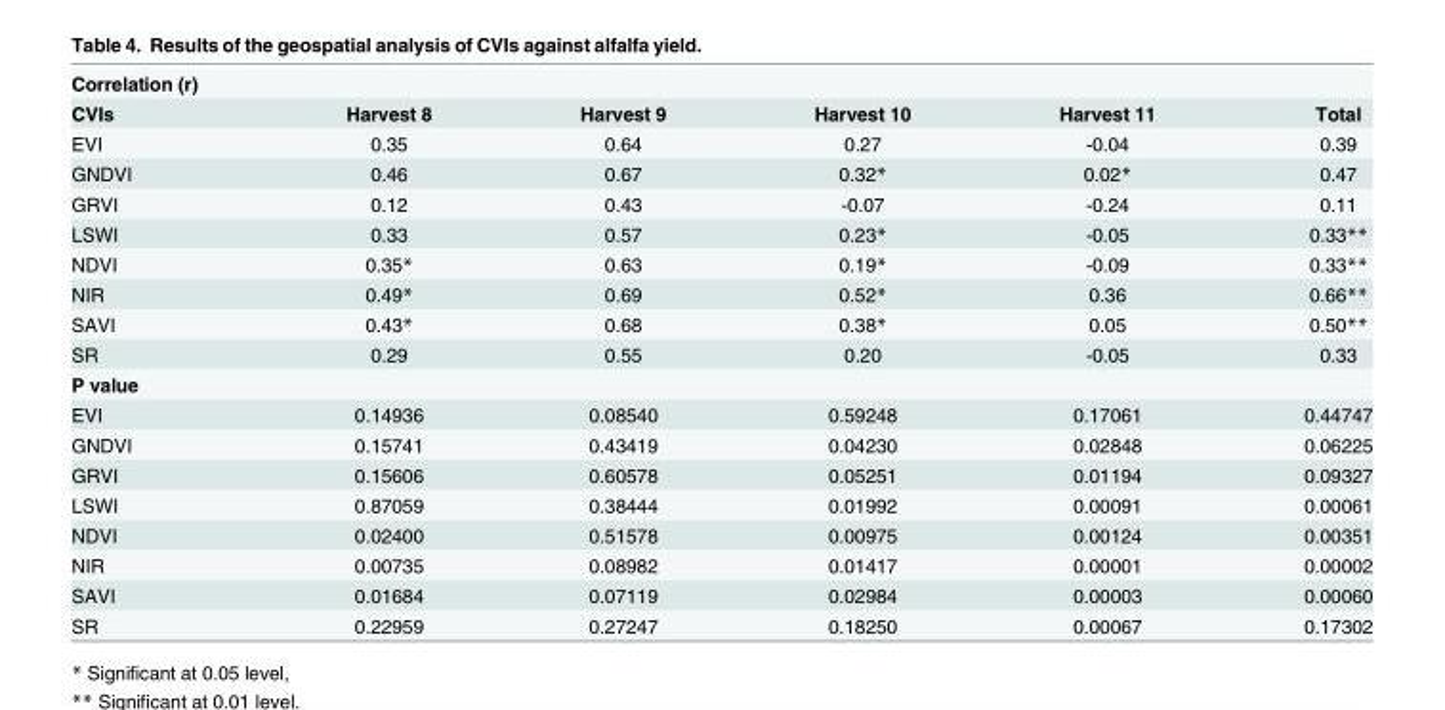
<table><tbody><tr><td colspan="6">Correlation (r)</td></tr><tr><td>CVIs</td><td>Harvest 8</td><td>Harvest 9</td><td>Harvest 10</td><td>Harvest 11</td><td>Total</td></tr><tr><td>EVI</td><td>0.35</td><td>0.64</td><td>0.27</td><td>-0.04</td><td>0.39</td></tr><tr><td>GNDVI</td><td>0.46</td><td>0.67</td><td>0.32*</td><td>0.02*</td><td>0.47</td></tr><tr><td>GRVI</td><td>0.12</td><td>0.43</td><td>-0.07</td><td>-0.24</td><td>0.11</td></tr><tr><td>LSWI</td><td>0.33</td><td>0.57</td><td>0.23*</td><td>-0.05</td><td>0.33**</td></tr><tr><td>NDVI</td><td>0.35*</td><td>0.63</td><td>0.19*</td><td>-0.09</td><td>0.33**</td></tr><tr><td>NIR</td><td>0.49*</td><td>0.69</td><td>0.52*</td><td>0.36</td><td>0.66**</td></tr><tr><td>SAVI</td><td>0.43*</td><td>0.68</td><td>0.38*</td><td>0.05</td><td>0.50**</td></tr><tr><td>SR</td><td>0.29</td><td>0.55</td><td>0.20</td><td>-0.05</td><td>0.33</td></tr><tr><td colspan="6">P value</td></tr><tr><td>EVI</td><td>0.14936</td><td>0.08540</td><td>0.59248</td><td>0.17061</td><td>0.44747</td></tr><tr><td>GNDVI</td><td>0.15741</td><td>0.43419</td><td>0.04230</td><td>0.02848</td><td>0.06225</td></tr><tr><td>GRVI</td><td>0.15606</td><td>0.60578</td><td>0.05251</td><td>0.01194</td><td>0.09327</td></tr><tr><td>LSWI</td><td>0.87059</td><td>0.38444</td><td>0.01992</td><td>0.00091</td><td>0.00061</td></tr><tr><td>NDVI</td><td>0.02400</td><td>0.51578</td><td>0.00975</td><td>0.00124</td><td>0.00351</td></tr><tr><td>NIR</td><td>0.00735</td><td>0.08982</td><td>0.01417</td><td>0.00001</td><td>0.00002</td></tr><tr><td>SAVI</td><td>0.01684</td><td>0.07119</td><td>0.02984</td><td>0.00003</td><td>0.00060</td></tr><tr><td>SR</td><td>0.22959</td><td>0.27247</td><td>0.18250</td><td>0.00067</td><td>0.17302</td></tr></tbody></table>